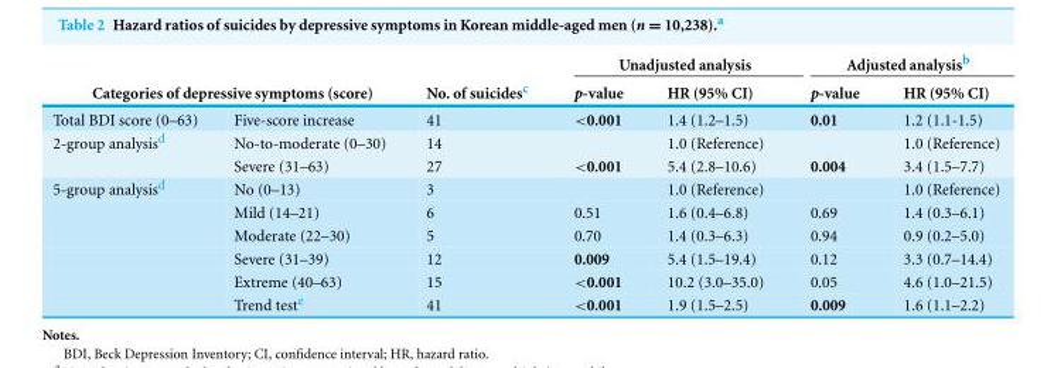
<table><thead><tr><td></td><td></td><td rowspan="2">No. of suicides<sup>c</sup></td><td colspan="2">Unadjusted analysis</td><td colspan="2">Adjusted analysis<sup>b</sup></td></tr><tr><td colspan="2">Categories of depressive symptoms (score)</td><td>p-value</td><td>HR (95% CI)</td><td>p-value</td><td>HR (95% CI)</td></tr></thead><tbody><tr><td>Total BDI score (0–63)</td><td>Five-score increase</td><td>41</td><td>&lt;0.001</td><td>1.4 (1.2–1.5)</td><td>0.01</td><td>1.2 (1.1-1.5)</td></tr><tr><td rowspan="2">2-group analysis<sup>d</sup></td><td>No-to-moderate (0–30)</td><td>14</td><td></td><td>1.0 (Reference)</td><td></td><td>1.0 (Reference)</td></tr><tr><td>Severe (31–63)</td><td>27</td><td>&lt;0.001</td><td>5.4 (2.8–10.6)</td><td>0.004</td><td>3.4 (1.5–7.7)</td></tr><tr><td rowspan="6">5-group analysis<sup>d</sup></td><td>No (0–13)</td><td>3</td><td></td><td>1.0 (Reference)</td><td></td><td>1.0 (Reference)</td></tr><tr><td>Mild (14–21)</td><td>6</td><td>0.51</td><td>1.6 (0.4–6.8)</td><td>0.69</td><td>1.4 (0.3–6.1)</td></tr><tr><td>Moderate (22–30)</td><td>5</td><td>0.70</td><td>1.4 (0.3–6.3)</td><td>0.94</td><td>0.9 (0.2–5.0)</td></tr><tr><td>Severe (31–39)</td><td>12</td><td>0.009</td><td>5.4 (1.5–19.4)</td><td>0.12</td><td>3.3 (0.7–14.4)</td></tr><tr><td>Extreme (40–63)</td><td>15</td><td>&lt;0.001</td><td>10.2 (3.0–35.0)</td><td>0.05</td><td>4.6 (1.0–21.5)</td></tr><tr><td>Trend test<sup>e</sup></td><td>41</td><td>&lt;0.001</td><td>1.9 (1.5–2.5)</td><td>0.009</td><td>1.6 (1.1–2.2)</td></tr></tbody></table>